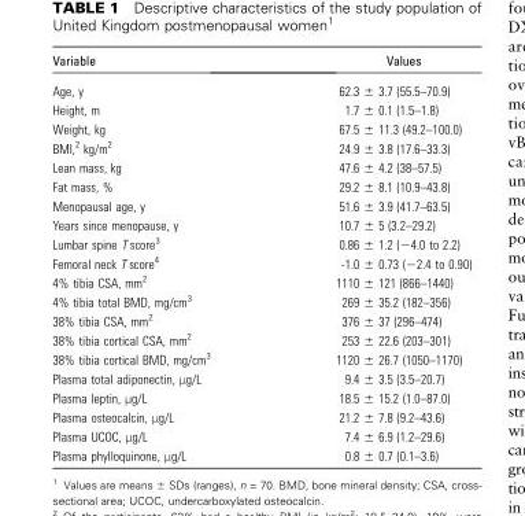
<table><thead><tr><td>Variable</td><td>Values</td></tr></thead><tbody><tr><td>Age, y</td><td>62.3 ± 3.7 (55.5–70.9)</td></tr><tr><td>Height, m</td><td>1.7 ± 0.1 (1.5–1.8)</td></tr><tr><td>Weight, kg</td><td>67.5 ± 11.3 (49.2–100.0)</td></tr><tr><td>BMI,<sup>2</sup> kg/m<sup>2</sup></td><td>24.9 ± 3.8 (17.6–33.3)</td></tr><tr><td>Lean mass, kg</td><td>47.6 ± 4.2 (38–57.5)</td></tr><tr><td>Fat mass, %</td><td>29.2 ± 8.1 (10.9–43.8)</td></tr><tr><td>Menopausal age, y</td><td>51.6 ± 3.9 (41.7–63.5)</td></tr><tr><td>Years since menopause, y</td><td>10.7 ± 5 (3.2–29.2)</td></tr><tr><td>Lumbar spine T score<sup>3</sup></td><td>0.86 ± 1.2 (−4.0 to 2.2)</td></tr><tr><td>Femoral neck T score<sup>4</sup></td><td>-1.0 ± 0.73 (−2.4 to 0.90)</td></tr><tr><td>4% tibia CSA, mm<sup>2</sup></td><td>1110 ± 121 (866–1440)</td></tr><tr><td>4% tibia total BMD, mg/cm<sup>3</sup></td><td>269 ± 35.2 (182–356)</td></tr><tr><td>38% tibia CSA, mm<sup>2</sup></td><td>376 ± 37 (296–474)</td></tr><tr><td>38% tibia cortical CSA, mm<sup>2</sup></td><td>253 ± 22.6 (203–301)</td></tr><tr><td>38% tibia cortical BMD, mg/cm<sup>3</sup></td><td>1120 ± 26.7 (1050–1170)</td></tr><tr><td>Plasma total adiponectin, μg/L</td><td>9.4 ± 3.5 (3.5–20.7)</td></tr><tr><td>Plasma leptin, μg/L</td><td>18.5 ± 15.2 (1.0–87.0)</td></tr><tr><td>Plasma osteocalcin, μg/L</td><td>21.2 ± 7.8 (9.2–43.6)</td></tr><tr><td>Plasma UCOC, μg/L</td><td>7.4 ± 6.9 (1.2–29.6)</td></tr><tr><td>Plasma phylloquinone, μg/L</td><td>0.8 ± 0.7 (0.1–3.6)</td></tr></tbody></table>